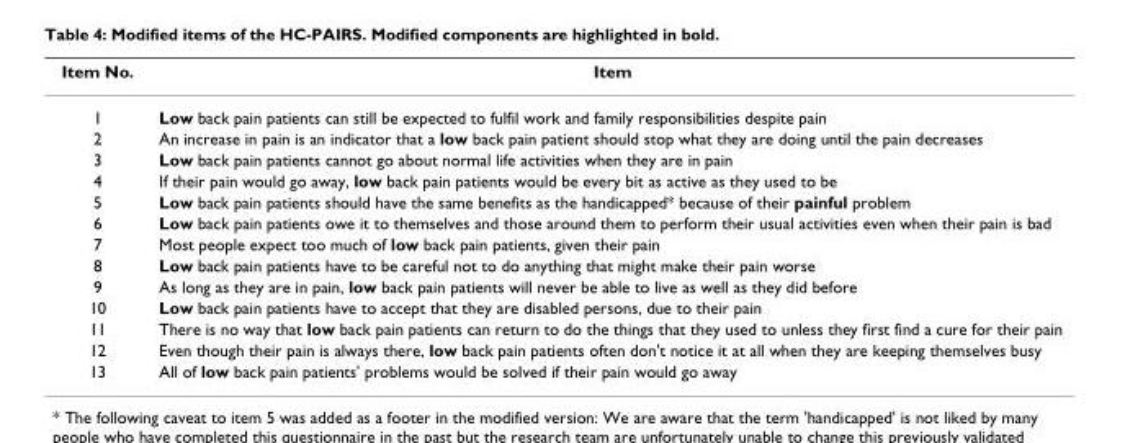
<table><thead><tr><td>Item No.</td><td>Item</td></tr></thead><tbody><tr><td>1</td><td>Low back pain patients can still be expected to fulfil work and family responsibilities despite pain</td></tr><tr><td>2</td><td>An increase in pain is an indicator that a low back pain patient should stop what they are doing until the pain decreases</td></tr><tr><td>3</td><td>Low back pain patients cannot go about normal life activities when they are in pain</td></tr><tr><td>4</td><td>If their pain would go away, low back pain patients would be every bit as active as they used to be</td></tr><tr><td>5</td><td>Low back pain patients should have the same benefits as the handicapped* because of their painful problem</td></tr><tr><td>6</td><td>Low back pain patients owe it to themselves and those around them to perform their usual activities even when their pain is bad</td></tr><tr><td>7</td><td>Most people expect too much of low back pain patients, given their pain</td></tr><tr><td>8</td><td>Low back pain patients have to be careful not to do anything that might make their pain worse</td></tr><tr><td>9</td><td>As long as they are in pain, low back pain patients will never be able to live as well as they did before</td></tr><tr><td>10</td><td>Low back pain patients have to accept that they are disabled persons, due to their pain</td></tr><tr><td>11</td><td>There is no way that low back pain patients can return to do the things that they used to unless they first find a cure for their pain</td></tr><tr><td>12</td><td>Even though their pain is always there, low back pain patients often don&#x27;t notice it at all when they are keeping themselves busy</td></tr><tr><td>13</td><td>All of low back pain patients&#x27; problems would be solved if their pain would go away</td></tr></tbody></table>